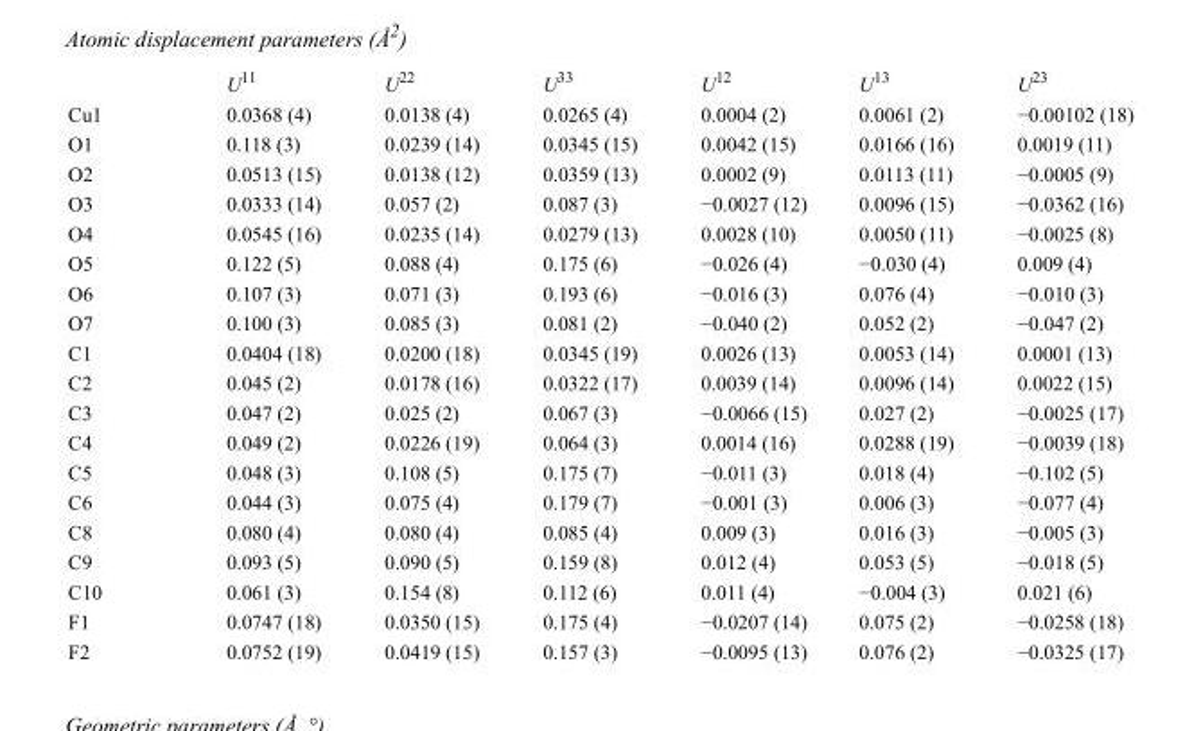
<table><thead><tr><td></td><td>U<sup>11</sup></td><td>U<sup>22</sup></td><td>U<sup>33</sup></td><td>U<sup>12</sup></td><td>U<sup>13</sup></td><td>U<sup>23</sup></td></tr></thead><tbody><tr><td>Cu1</td><td>0.0368 (4)</td><td>0.0138 (4)</td><td>0.0265 (4)</td><td>0.0004 (2)</td><td>0.0061 (2)</td><td>−0.00102 (18)</td></tr><tr><td>O1</td><td>0.118 (3)</td><td>0.0239 (14)</td><td>0.0345 (15)</td><td>0.0042 (15)</td><td>0.0166 (16)</td><td>0.0019 (11)</td></tr><tr><td>O2</td><td>0.0513 (15)</td><td>0.0138 (12)</td><td>0.0359 (13)</td><td>0.0002 (9)</td><td>0.0113 (11)</td><td>−0.0005 (9)</td></tr><tr><td>O3</td><td>0.0333 (14)</td><td>0.057 (2)</td><td>0.087 (3)</td><td>−0.0027 (12)</td><td>0.0096 (15)</td><td>−0.0362 (16)</td></tr><tr><td>O4</td><td>0.0545 (16)</td><td>0.0235 (14)</td><td>0.0279 (13)</td><td>0.0028 (10)</td><td>0.0050 (11)</td><td>−0.0025 (8)</td></tr><tr><td>O5</td><td>0.122 (5)</td><td>0.088 (4)</td><td>0.175 (6)</td><td>−0.026 (4)</td><td>−0.030 (4)</td><td>0.009 (4)</td></tr><tr><td>O6</td><td>0.107 (3)</td><td>0.071 (3)</td><td>0.193 (6)</td><td>−0.016 (3)</td><td>0.076 (4)</td><td>−0.010 (3)</td></tr><tr><td>O7</td><td>0.100 (3)</td><td>0.085 (3)</td><td>0.081 (2)</td><td>−0.040 (2)</td><td>0.052 (2)</td><td>−0.047 (2)</td></tr><tr><td>C1</td><td>0.0404 (18)</td><td>0.0200 (18)</td><td>0.0345 (19)</td><td>0.0026 (13)</td><td>0.0053 (14)</td><td>0.0001 (13)</td></tr><tr><td>C2</td><td>0.045 (2)</td><td>0.0178 (16)</td><td>0.0322 (17)</td><td>0.0039 (14)</td><td>0.0096 (14)</td><td>0.0022 (15)</td></tr><tr><td>C3</td><td>0.047 (2)</td><td>0.025 (2)</td><td>0.067 (3)</td><td>−0.0066 (15)</td><td>0.027 (2)</td><td>−0.0025 (17)</td></tr><tr><td>C4</td><td>0.049 (2)</td><td>0.0226 (19)</td><td>0.064 (3)</td><td>0.0014 (16)</td><td>0.0288 (19)</td><td>−0.0039 (18)</td></tr><tr><td>C5</td><td>0.048 (3)</td><td>0.108 (5)</td><td>0.175 (7)</td><td>−0.011 (3)</td><td>0.018 (4)</td><td>−0.102 (5)</td></tr><tr><td>C6</td><td>0.044 (3)</td><td>0.075 (4)</td><td>0.179 (7)</td><td>−0.001 (3)</td><td>0.006 (3)</td><td>−0.077 (4)</td></tr><tr><td>C8</td><td>0.080 (4)</td><td>0.080 (4)</td><td>0.085 (4)</td><td>0.009 (3)</td><td>0.016 (3)</td><td>−0.005 (3)</td></tr><tr><td>C9</td><td>0.093 (5)</td><td>0.090 (5)</td><td>0.159 (8)</td><td>0.012 (4)</td><td>0.053 (5)</td><td>−0.018 (5)</td></tr><tr><td>C10</td><td>0.061 (3)</td><td>0.154 (8)</td><td>0.112 (6)</td><td>0.011 (4)</td><td>−0.004 (3)</td><td>0.021 (6)</td></tr><tr><td>F1</td><td>0.0747 (18)</td><td>0.0350 (15)</td><td>0.175 (4)</td><td>−0.0207 (14)</td><td>0.075 (2)</td><td>−0.0258 (18)</td></tr><tr><td>F2</td><td>0.0752 (19)</td><td>0.0419 (15)</td><td>0.157 (3)</td><td>−0.0095 (13)</td><td>0.076 (2)</td><td>−0.0325 (17)</td></tr></tbody></table>